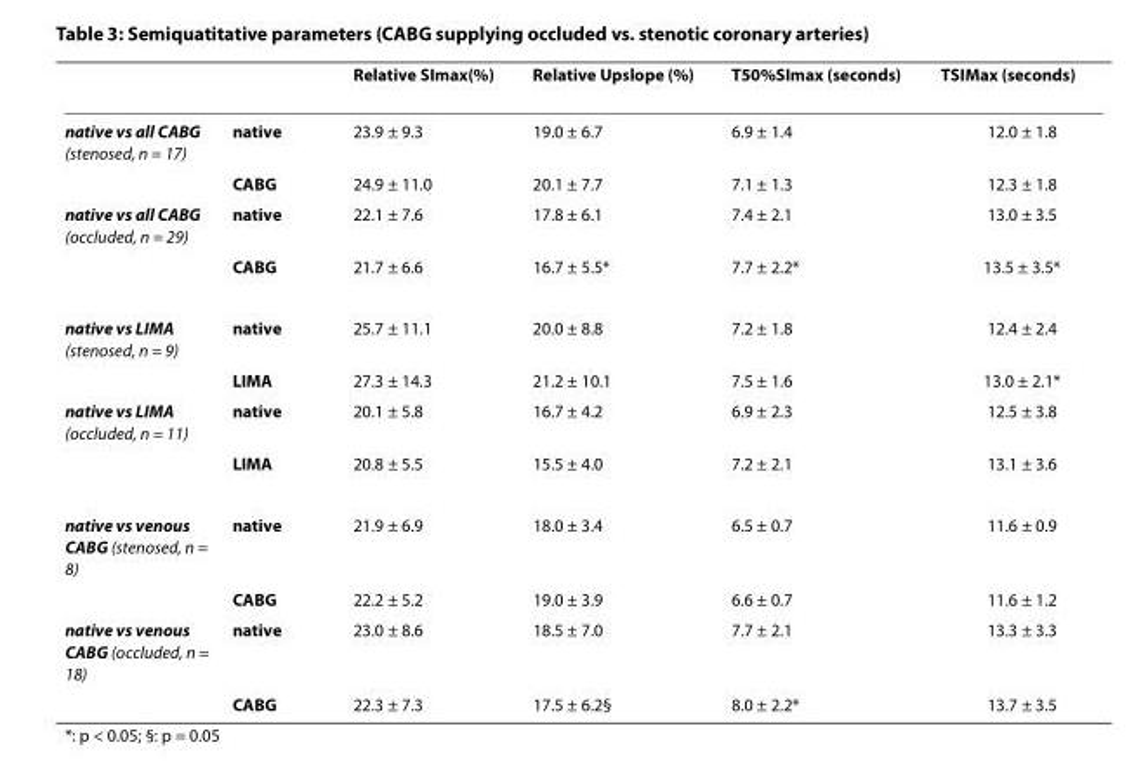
<table><thead><tr><td></td><td></td><td>Relative SI<sub>max</sub>(%)</td><td>Relative Upslope (%)</td><td>T<sub>50%SImax</sub> (seconds)</td><td>T<sub>SIMax</sub> (seconds)</td></tr></thead><tbody><tr><td rowspan="2">native vs all CABG (stenosed, n = 17)</td><td>native</td><td>23.9 ± 9.3</td><td>19.0 ± 6.7</td><td>6.9 ± 1.4</td><td>12.0 ± 1.8</td></tr><tr><td>CABG</td><td>24.9 ± 11.0</td><td>20.1 ± 7.7</td><td>7.1 ± 1.3</td><td>12.3 ± 1.8</td></tr><tr><td rowspan="2">native vs all CABG (occluded, n = 29)</td><td>native</td><td>22.1 ± 7.6</td><td>17.8 ± 6.1</td><td>7.4 ± 2.1</td><td>13.0 ± 3.5</td></tr><tr><td>CABG</td><td>21.7 ± 6.6</td><td>16.7 ± 5.5*</td><td>7.7 ± 2.2*</td><td>13.5 ± 3.5*</td></tr><tr><td rowspan="2">native vs LIMA (stenosed, n = 9)</td><td>native</td><td>25.7 ± 11.1</td><td>20.0 ± 8.8</td><td>7.2 ± 1.8</td><td>12.4 ± 2.4</td></tr><tr><td>LIMA</td><td>27.3 ± 14.3</td><td>21.2 ± 10.1</td><td>7.5 ± 1.6</td><td>13.0 ± 2.1*</td></tr><tr><td rowspan="2">native vs LIMA (occluded, n = 11)</td><td>native</td><td>20.1 ± 5.8</td><td>16.7 ± 4.2</td><td>6.9 ± 2.3</td><td>12.5 ± 3.8</td></tr><tr><td>LIMA</td><td>20.8 ± 5.5</td><td>15.5 ± 4.0</td><td>7.2 ± 2.1</td><td>13.1 ± 3.6</td></tr><tr><td rowspan="2">native vs venous CABG (stenosed, n = 8)</td><td>native</td><td>21.9 ± 6.9</td><td>18.0 ± 3.4</td><td>6.5 ± 0.7</td><td>11.6 ± 0.9</td></tr><tr><td>CABG</td><td>22.2 ± 5.2</td><td>19.0 ± 3.9</td><td>6.6 ± 0.7</td><td>11.6 ± 1.2</td></tr><tr><td rowspan="2">native vs venous CABG (occluded, n = 18)</td><td>native</td><td>23.0 ± 8.6</td><td>18.5 ± 7.0</td><td>7.7 ± 2.1</td><td>13.3 ± 3.3</td></tr><tr><td>CABG</td><td>22.3 ± 7.3</td><td>17.5 ± 6.2§</td><td>8.0 ± 2.2*</td><td>13.7 ± 3.5</td></tr></tbody></table>